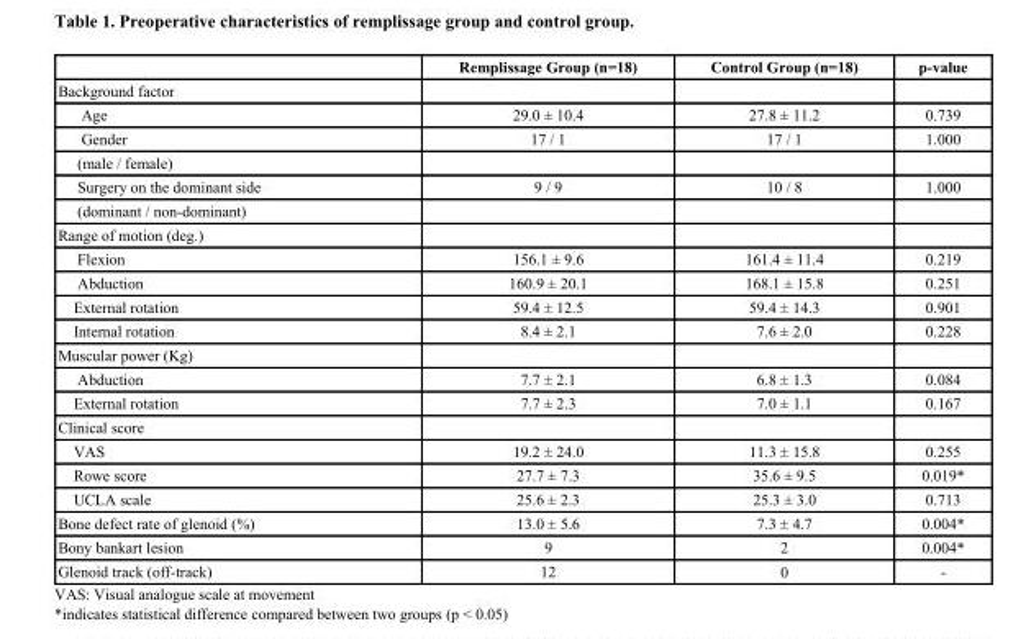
<table><thead><tr><td></td><td>Remplissage Group (n=18)</td><td>Control Group (n=18)</td><td>p-value</td></tr></thead><tbody><tr><td colspan="4">Background factor</td></tr><tr><td>Age</td><td>29.0 ± 10.4</td><td>27.8 ± 11.2</td><td>0.739</td></tr><tr><td>Gender</td><td>17 / 1</td><td>17 / 1</td><td>1.000</td></tr><tr><td colspan="4">(male / female)</td></tr><tr><td>Surgery on the dominant side</td><td>9 / 9</td><td>10 / 8</td><td>1.000</td></tr><tr><td colspan="4">(dominant / non-dominant)</td></tr><tr><td colspan="4">Range of motion (deg.)</td></tr><tr><td>Flexion</td><td>156.1 ± 9.6</td><td>161.4 ± 11.4</td><td>0.219</td></tr><tr><td>Abduction</td><td>160.9 ± 20.1</td><td>168.1 ± 15.8</td><td>0.251</td></tr><tr><td>External rotation</td><td>59.4 ± 12.5</td><td>59.4 ± 14.3</td><td>0.901</td></tr><tr><td>Internal rotation</td><td>8.4 ± 2.1</td><td>7.6 ± 2.0</td><td>0.228</td></tr><tr><td colspan="4">Muscular power (Kg)</td></tr><tr><td>Abduction</td><td>7.7 ± 2.1</td><td>6.8 ± 1.3</td><td>0.084</td></tr><tr><td>External rotation</td><td>7.7 ± 2.3</td><td>7.0 ± 1.1</td><td>0.167</td></tr><tr><td colspan="4">Clinical score</td></tr><tr><td>VAS</td><td>19.2 ± 24.0</td><td>11.3 ± 15.8</td><td>0.255</td></tr><tr><td>Rowe score</td><td>27.7 ± 7.3</td><td>35.6 ± 9.5</td><td>0.019*</td></tr><tr><td>UCLA scale</td><td>25.6 ± 2.3</td><td>25.3 ± 3.0</td><td>0.713</td></tr><tr><td>Bone defect rate of glenoid (%)</td><td>13.0 ± 5.6</td><td>7.3 ± 4.7</td><td>0.004*</td></tr><tr><td>Bony bankart lesion</td><td>9</td><td>2</td><td>0.004*</td></tr><tr><td>Glenoid track (off-track)</td><td>12</td><td>0</td><td>-</td></tr></tbody></table>